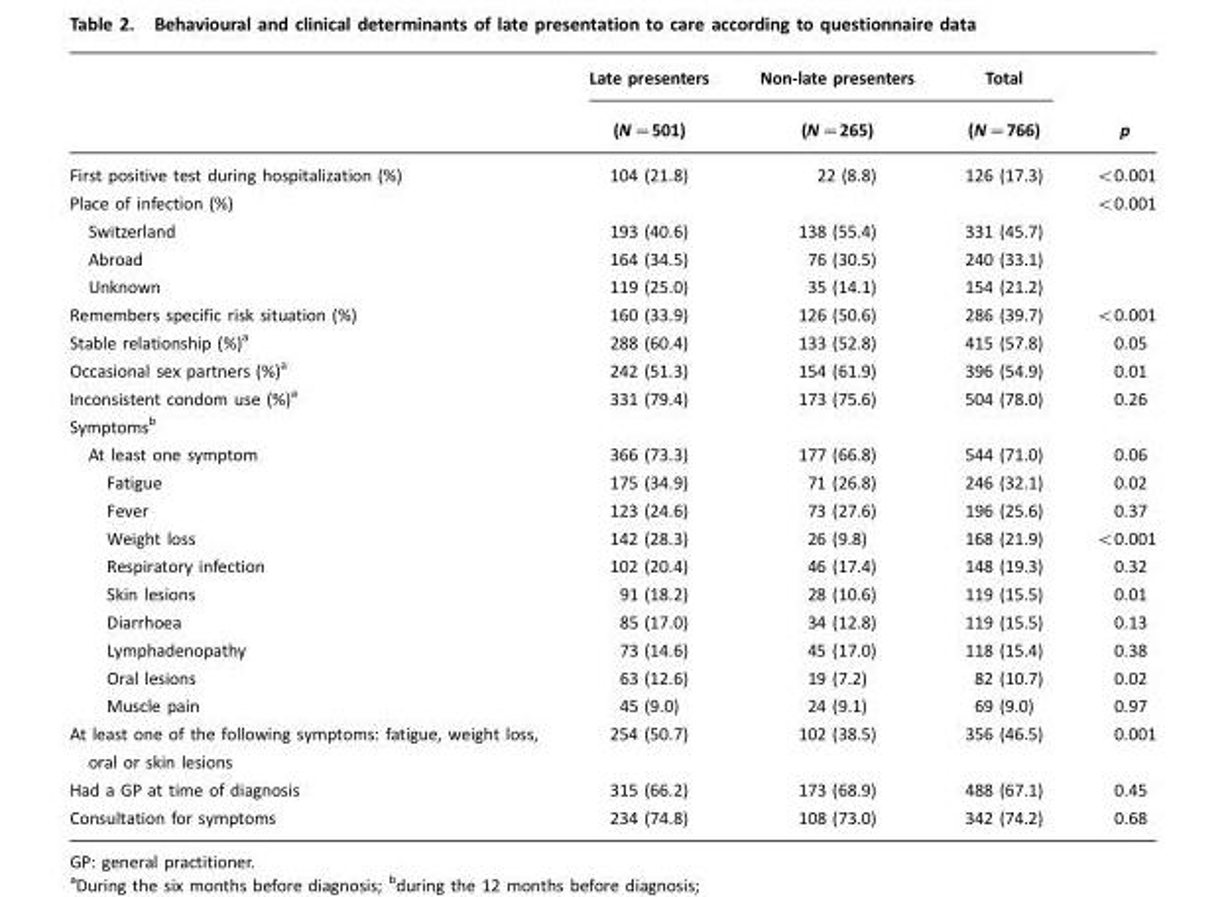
<table><thead><tr><td rowspan="2"></td><td rowspan="2">Late presenters (N=501)</td><td rowspan="2">Non-late presenters (N=265)</td><td rowspan="2">Total (N=766)</td><td rowspan="2">p</td></tr><tr></tr></thead><tbody><tr><td>First positive test during hospitalization (%)</td><td>104 (21.8)</td><td>22 (8.8)</td><td>126 (17.3)</td><td>&lt;0.001</td></tr><tr><td>Place of infection (%)</td><td></td><td></td><td></td><td>&lt;0.001</td></tr><tr><td>Switzerland</td><td>193 (40.6)</td><td>138 (55.4)</td><td>331 (45.7)</td><td></td></tr><tr><td>Abroad</td><td>164 (34.5)</td><td>76 (30.5)</td><td>240 (33.1)</td><td></td></tr><tr><td>Unknown</td><td>119 (25.0)</td><td>35 (14.1)</td><td>154 (21.2)</td><td></td></tr><tr><td>Remembers specific risk situation (%)</td><td>160 (33.9)</td><td>126 (50.6)</td><td>286 (39.7)</td><td>&lt;0.001</td></tr><tr><td>Stable relationship (%)<sup>a</sup></td><td>288 (60.4)</td><td>133 (52.8)</td><td>415 (57.8)</td><td>0.05</td></tr><tr><td>Occasional sex partners (%)<sup>a</sup></td><td>242 (51.3)</td><td>154 (61.9)</td><td>396 (54.9)</td><td>0.01</td></tr><tr><td>Inconsistent condom use (%)<sup>a</sup></td><td>331 (79.4)</td><td>173 (75.6)</td><td>504 (78.0)</td><td>0.26</td></tr><tr><td colspan="5">Symptoms<sup>b</sup></td></tr><tr><td>At least one symptom</td><td>366 (73.3)</td><td>177 (66.8)</td><td>544 (71.0)</td><td>0.06</td></tr><tr><td>Fatigue</td><td>175 (34.9)</td><td>71 (26.8)</td><td>246 (32.1)</td><td>0.02</td></tr><tr><td>Fever</td><td>123 (24.6)</td><td>73 (27.6)</td><td>196 (25.6)</td><td>0.37</td></tr><tr><td>Weight loss</td><td>142 (28.3)</td><td>26 (9.8)</td><td>168 (21.9)</td><td>&lt;0.001</td></tr><tr><td>Respiratory infection</td><td>102 (20.4)</td><td>46 (17.4)</td><td>148 (19.3)</td><td>0.32</td></tr><tr><td>Skin lesions</td><td>91 (18.2)</td><td>28 (10.6)</td><td>119 (15.5)</td><td>0.01</td></tr><tr><td>Diarrhoea</td><td>85 (17.0)</td><td>34 (12.8)</td><td>119 (15.5)</td><td>0.13</td></tr><tr><td>Lymphadenopathy</td><td>73 (14.6)</td><td>45 (17.0)</td><td>118 (15.4)</td><td>0.38</td></tr><tr><td>Oral lesions</td><td>63 (12.6)</td><td>19 (7.2)</td><td>82 (10.7)</td><td>0.02</td></tr><tr><td>Muscle pain</td><td>45 (9.0)</td><td>24 (9.1)</td><td>69 (9.0)</td><td>0.97</td></tr><tr><td>At least one of the following symptoms: fatigue, weight loss, oral or skin lesions</td><td>254 (50.7)</td><td>102 (38.5)</td><td>356 (46.5)</td><td>0.001</td></tr><tr><td>Had a GP at time of diagnosis</td><td>315 (66.2)</td><td>173 (68.9)</td><td>488 (67.1)</td><td>0.45</td></tr><tr><td>Consultation for symptoms</td><td>234 (74.8)</td><td>108 (73.0)</td><td>342 (74.2)</td><td>0.68</td></tr></tbody></table>